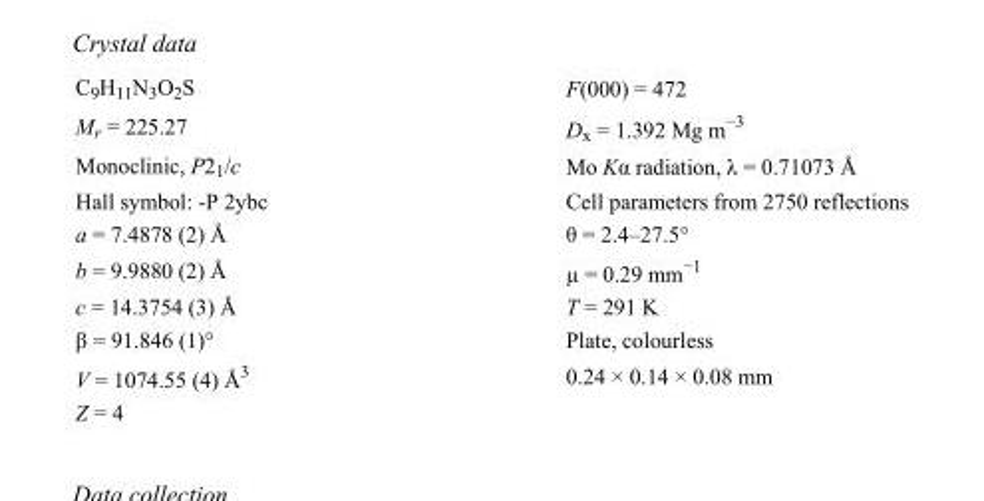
<table><tbody><tr><td>C<sub>9</sub>H<sub>11</sub>N<sub>3</sub>O<sub>2</sub>S</td><td>F(000) = 472</td></tr><tr><td>M<sub>r</sub> = 225.27</td><td>D<sub>x</sub> = 1.392 Mg m<sup>−3</sup></td></tr><tr><td>Monoclinic, P2<sub>1</sub>/c</td><td>Mo Kα radiation, λ = 0.71073 Å</td></tr><tr><td>Hall symbol: -P 2ybc</td><td>Cell parameters from 2750 reflections</td></tr><tr><td>a = 7.4878 (2) Å</td><td>θ = 2.4–27.5°</td></tr><tr><td>b = 9.9880 (2) Å</td><td>µ = 0.29 mm<sup>−1</sup></td></tr><tr><td>c = 14.3754 (3) Å</td><td>T = 291 K</td></tr><tr><td>β = 91.846 (1)°</td><td>Plate, colourless</td></tr><tr><td>V = 1074.55 (4) Å<sup>3</sup></td><td>0.24 × 0.14 × 0.08 mm</td></tr><tr><td>Z = 4</td><td></td></tr></tbody></table>